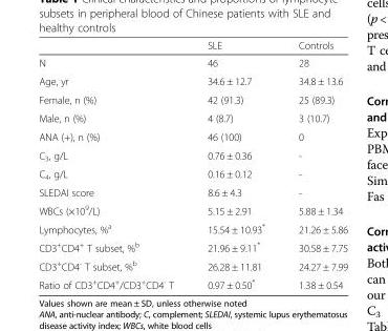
<table><thead><tr><td></td><td>SLE</td><td>Controls</td></tr></thead><tbody><tr><td>N</td><td>46</td><td>28</td></tr><tr><td>Age, yr</td><td>34.6 ± 12.7</td><td>34.8 ± 13.6</td></tr><tr><td>Female, n (%)</td><td>42 (91.3)</td><td>25 (89.3)</td></tr><tr><td>Male, n (%)</td><td>4 (8.7)</td><td>3 (10.7)</td></tr><tr><td>ANA (+), n (%)</td><td>46 (100)</td><td>0</td></tr><tr><td>C<sub>3</sub>, g/L</td><td>0.76 ± 0.36</td><td>-</td></tr><tr><td>C<sub>4</sub>, g/L</td><td>0.16 ± 0.12</td><td>-</td></tr><tr><td>SLEDAI score</td><td>8.6 ± 4.3</td><td>-</td></tr><tr><td>WBCs (×10<sup>9</sup>/L)</td><td>5.15 ± 2.91</td><td>5.88 ± 1.34</td></tr><tr><td>Lymphocytes, %<sup>a</sup></td><td>15.54 ± 10.93*</td><td>21.26 ± 5.86</td></tr><tr><td>CD3<sup>+</sup>CD4<sup>+</sup> T subset, %<sup>b</sup></td><td>21.96 ± 9.11*</td><td>30.58 ± 7.75</td></tr><tr><td>CD3<sup>+</sup>CD4<sup>-</sup> T subset, %<sup>b</sup></td><td>26.28 ± 11.81</td><td>24.27 ± 7.99</td></tr><tr><td>Ratio of CD3<sup>+</sup>CD4<sup>+</sup>/CD3<sup>+</sup>CD4<sup>-</sup> T</td><td>0.97 ± 0.50*</td><td>1.38 ± 0.54</td></tr></tbody></table>